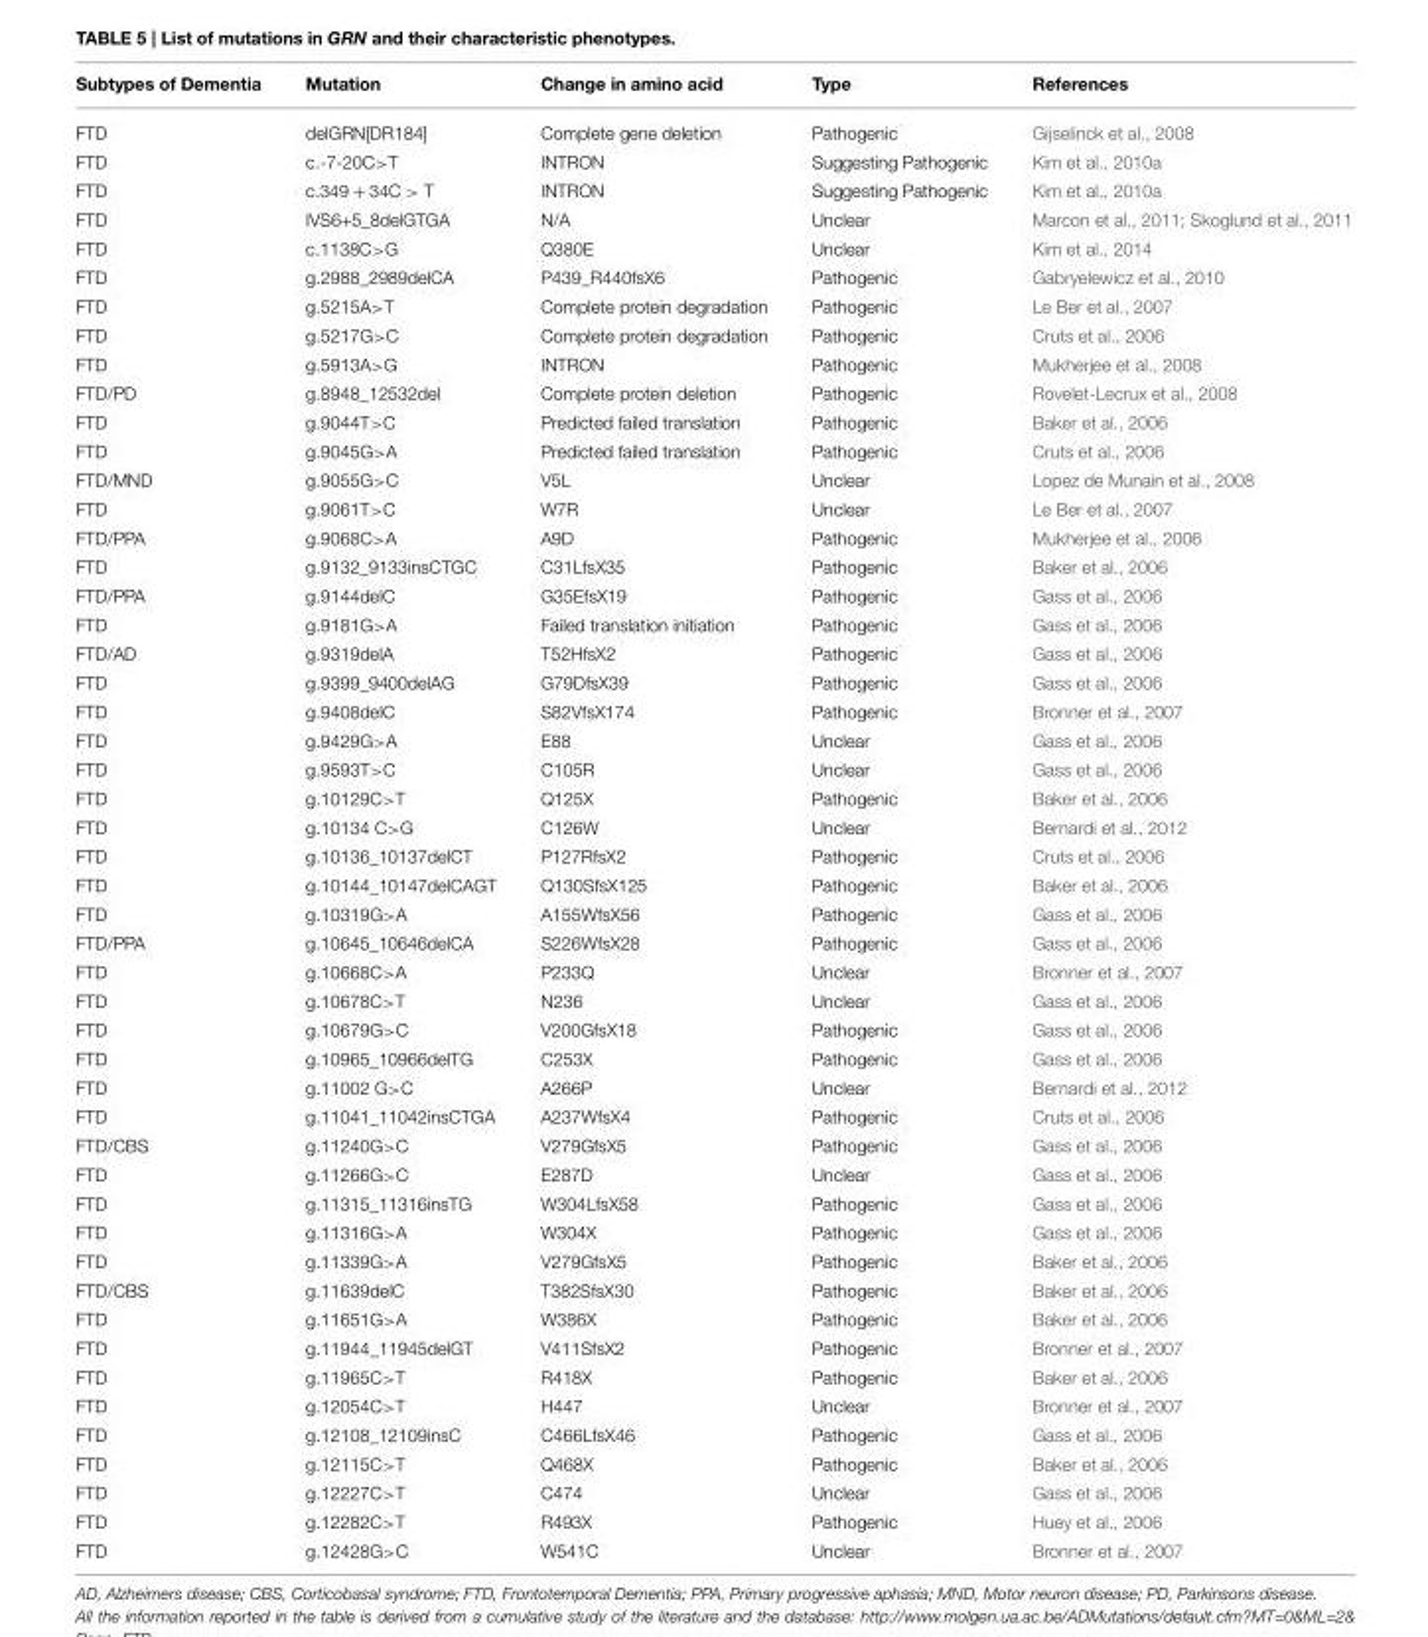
<table><thead><tr><td>Subtypes of Dementia</td><td>Mutation</td><td>Change in amino acid</td><td>Type</td><td>References</td></tr></thead><tbody><tr><td>FTD</td><td>delGRN[DR184]</td><td>Complete gene deletion</td><td>Pathogenic</td><td>Gijselinck et al., 2008</td></tr><tr><td>FTD</td><td>c.-7-20C&gt;T</td><td>INTRON</td><td>Suggesting Pathogenic</td><td>Kim et al., 2010a</td></tr><tr><td>FTD</td><td>c.349 + 34C &gt; T</td><td>INTRON</td><td>Suggesting Pathogenic</td><td>Kim et al., 2010a</td></tr><tr><td>FTD</td><td>IVS6+5_8delGTGA</td><td>N/A</td><td>Unclear</td><td>Marcon et al., 2011; Skoglund et al., 2011</td></tr><tr><td>FTD</td><td>c.1138C&gt;G</td><td>Q380E</td><td>Unclear</td><td>Kim et al., 2014</td></tr><tr><td>FTD</td><td>g.2988_2989delCA</td><td>P439_R440fsX6</td><td>Pathogenic</td><td>Gabryelewicz et al., 2010</td></tr><tr><td>FTD</td><td>g.5215A&gt;T</td><td>Complete protein degradation</td><td>Pathogenic</td><td>Le Ber et al., 2007</td></tr><tr><td>FTD</td><td>g.5217G&gt;C</td><td>Complete protein degradation</td><td>Pathogenic</td><td>Cruts et al., 2006</td></tr><tr><td>FTD</td><td>g.5913A&gt;G</td><td>INTRON</td><td>Pathogenic</td><td>Mukherjee et al., 2008</td></tr><tr><td>FTD/PD</td><td>g.8948_12532del</td><td>Complete protein deletion</td><td>Pathogenic</td><td>Rovelet-Lecrux et al., 2008</td></tr><tr><td>FTD</td><td>g.9044T&gt;C</td><td>Predicted failed translation</td><td>Pathogenic</td><td>Baker et al., 2006</td></tr><tr><td>FTD</td><td>g.9045G&gt;A</td><td>Predicted failed translation</td><td>Pathogenic</td><td>Cruts et al., 2006</td></tr><tr><td>FTD/MND</td><td>g.9055G&gt;C</td><td>V5L</td><td>Unclear</td><td>Lopez de Munain et al., 2008</td></tr><tr><td>FTD</td><td>g.9061T&gt;C</td><td>W7R</td><td>Unclear</td><td>Le Ber et al., 2007</td></tr><tr><td>FTD/PPA</td><td>g.9068C&gt;A</td><td>A9D</td><td>Pathogenic</td><td>Mukherjee et al., 2006</td></tr><tr><td>FTD</td><td>g.9132_9133insCTGC</td><td>C31LfsX35</td><td>Pathogenic</td><td>Baker et al., 2006</td></tr><tr><td>FTD/PPA</td><td>g.9144delC</td><td>G35EfsX19</td><td>Pathogenic</td><td>Gass et al., 2006</td></tr><tr><td>FTD</td><td>g.9181G&gt;A</td><td>Failed translation initiation</td><td>Pathogenic</td><td>Gass et al., 2006</td></tr><tr><td>FTD/AD</td><td>g.9319delA</td><td>T52HfsX2</td><td>Pathogenic</td><td>Gass et al., 2006</td></tr><tr><td>FTD</td><td>g.9399_9400delAG</td><td>G79DfsX39</td><td>Pathogenic</td><td>Gass et al., 2006</td></tr><tr><td>FTD</td><td>g.9408delC</td><td>S82VfsX174</td><td>Pathogenic</td><td>Bronner et al., 2007</td></tr><tr><td>FTD</td><td>g.9429G&gt;A</td><td>E88</td><td>Unclear</td><td>Gass et al., 2006</td></tr><tr><td>FTD</td><td>g.9593T&gt;C</td><td>C105R</td><td>Unclear</td><td>Gass et al., 2006</td></tr><tr><td>FTD</td><td>g.10129C&gt;T</td><td>Q125X</td><td>Pathogenic</td><td>Baker et al., 2006</td></tr><tr><td>FTD</td><td>g.10134 C&gt;G</td><td>C126W</td><td>Unclear</td><td>Bernardi et al., 2012</td></tr><tr><td>FTD</td><td>g.10136_10137delCT</td><td>P127RfsX2</td><td>Pathogenic</td><td>Cruts et al., 2006</td></tr><tr><td>FTD</td><td>g.10144_10147delCAGT</td><td>Q130SfsX125</td><td>Pathogenic</td><td>Baker et al., 2006</td></tr><tr><td>FTD</td><td>g.10319G&gt;A</td><td>A155WfsX56</td><td>Pathogenic</td><td>Gass et al., 2006</td></tr><tr><td>FTD/PPA</td><td>g.10645_10646delCA</td><td>S226WfsX28</td><td>Pathogenic</td><td>Gass et al., 2006</td></tr><tr><td>FTD</td><td>g.10668C&gt;A</td><td>P233Q</td><td>Unclear</td><td>Bronner et al., 2007</td></tr><tr><td>FTD</td><td>g.10678C&gt;T</td><td>N236</td><td>Unclear</td><td>Gass et al., 2006</td></tr><tr><td>FTD</td><td>g.10679G&gt;C</td><td>V200GfsX18</td><td>Pathogenic</td><td>Gass et al., 2006</td></tr><tr><td>FTD</td><td>g.10965_10966delTG</td><td>C253X</td><td>Pathogenic</td><td>Gass et al., 2006</td></tr><tr><td>FTD</td><td>g.11002 G&gt;C</td><td>A266P</td><td>Unclear</td><td>Bernardi et al., 2012</td></tr><tr><td>FTD</td><td>g.11041_11042insCTGA</td><td>A237WfsX4</td><td>Pathogenic</td><td>Cruts et al., 2006</td></tr><tr><td>FTD/CBS</td><td>g.11240G&gt;C</td><td>V279GfsX5</td><td>Pathogenic</td><td>Gass et al., 2006</td></tr><tr><td>FTD</td><td>g.11266G&gt;C</td><td>E287D</td><td>Unclear</td><td>Gass et al., 2006</td></tr><tr><td>FTD</td><td>g.11315_11316insTG</td><td>W304LfsX58</td><td>Pathogenic</td><td>Gass et al., 2006</td></tr><tr><td>FTD</td><td>g.11316G&gt;A</td><td>W304X</td><td>Pathogenic</td><td>Gass et al., 2006</td></tr><tr><td>FTD</td><td>g.11339G&gt;A</td><td>V279GfsX5</td><td>Pathogenic</td><td>Baker et al., 2006</td></tr><tr><td>FTD/CBS</td><td>g.11639delC</td><td>T382SfsX30</td><td>Pathogenic</td><td>Baker et al., 2006</td></tr><tr><td>FTD</td><td>g.11651G&gt;A</td><td>W386X</td><td>Pathogenic</td><td>Baker et al., 2006</td></tr><tr><td>FTD</td><td>g.11944_11945delGT</td><td>V411SfsX2</td><td>Pathogenic</td><td>Bronner et al., 2007</td></tr><tr><td>FTD</td><td>g.11965C&gt;T</td><td>R418X</td><td>Pathogenic</td><td>Baker et al., 2006</td></tr><tr><td>FTD</td><td>g.12054C&gt;T</td><td>H447</td><td>Unclear</td><td>Bronner et al., 2007</td></tr><tr><td>FTD</td><td>g.12108_12109insC</td><td>C466LfsX46</td><td>Pathogenic</td><td>Gass et al., 2006</td></tr><tr><td>FTD</td><td>g.12115C&gt;T</td><td>Q468X</td><td>Pathogenic</td><td>Baker et al., 2006</td></tr><tr><td>FTD</td><td>g.12227C&gt;T</td><td>C474</td><td>Unclear</td><td>Gass et al., 2006</td></tr><tr><td>FTD</td><td>g.12282C&gt;T</td><td>R493X</td><td>Pathogenic</td><td>Huey et al., 2006</td></tr><tr><td>FTD</td><td>g.12428G&gt;C</td><td>W541C</td><td>Unclear</td><td>Bronner et al., 2007</td></tr></tbody></table>